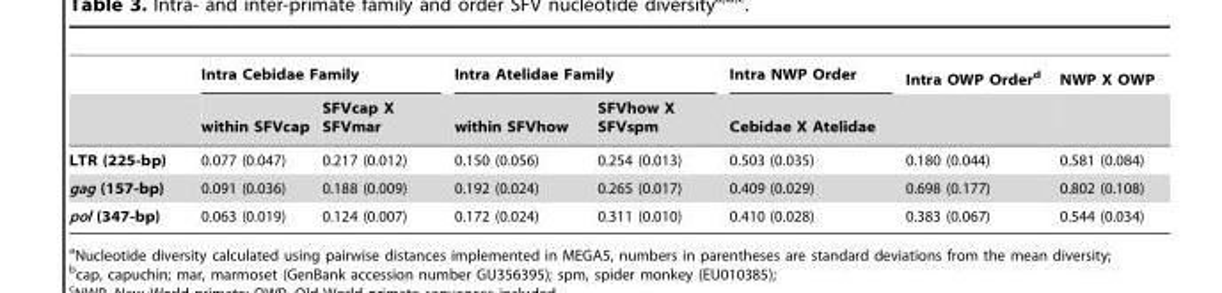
<table><thead><tr><td rowspan="2"></td><td colspan="2">Intra Cebidae Family</td><td colspan="2">Intra Atelidae Family</td><td rowspan="2">Intra NWP Order Cebidae X Atelidae</td><td rowspan="2">Intra OWP Order<sup>d</sup></td><td rowspan="2">NWP X OWP</td></tr><tr><td>within SFVcap</td><td>SFVcap X SFVmar</td><td>within SFVhow</td><td>SFVhow X SFVspm</td></tr></thead><tbody><tr><td>LTR (225-bp)</td><td>0.077 (0.047)</td><td>0.217 (0.012)</td><td>0.150 (0.056)</td><td>0.254 (0.013)</td><td>0.503 (0.035)</td><td>0.180 (0.044)</td><td>0.581 (0.084)</td></tr><tr><td>gag (157-bp)</td><td>0.091 (0.036)</td><td>0.188 (0.009)</td><td>0.192 (0.024)</td><td>0.265 (0.017)</td><td>0.409 (0.029)</td><td>0.698 (0.177)</td><td>0.802 (0.108)</td></tr><tr><td>pol (347-bp)</td><td>0.063 (0.019)</td><td>0.124 (0.007)</td><td>0.172 (0.024)</td><td>0.311 (0.010)</td><td>0.410 (0.028)</td><td>0.383 (0.067)</td><td>0.544 (0.034)</td></tr></tbody></table>